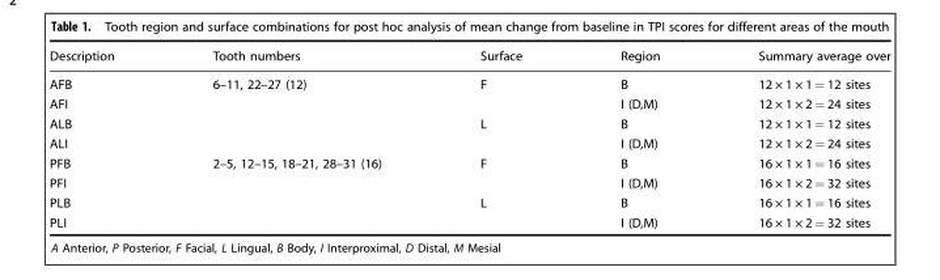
<table><thead><tr><td>Description</td><td>Tooth numbers</td><td>Surface</td><td>Region</td><td>Summary average over</td></tr></thead><tbody><tr><td>AFB</td><td rowspan="4">6–11, 22–27 (12)</td><td rowspan="2">F</td><td>B</td><td>12 × 1 × 1 = 12 sites</td></tr><tr><td>AFI</td><td>I (D,M)</td><td>12 × 1 × 2 = 24 sites</td></tr><tr><td>ALB</td><td rowspan="2">L</td><td>B</td><td>12 × 1 × 1 = 12 sites</td></tr><tr><td>ALI</td><td>I (D,M)</td><td>12 × 1 × 2 = 24 sites</td></tr><tr><td>PFB</td><td rowspan="4">2–5, 12–15, 18–21, 28–31 (16)</td><td rowspan="2">F</td><td>B</td><td>16 × 1 × 1 = 16 sites</td></tr><tr><td>PFI</td><td>I (D,M)</td><td>16 × 1 × 2 = 32 sites</td></tr><tr><td>PLB</td><td rowspan="2">L</td><td>B</td><td>16 × 1 × 1 = 16 sites</td></tr><tr><td>PLI</td><td>I (D,M)</td><td>16 × 1 × 2 = 32 sites</td></tr></tbody></table>